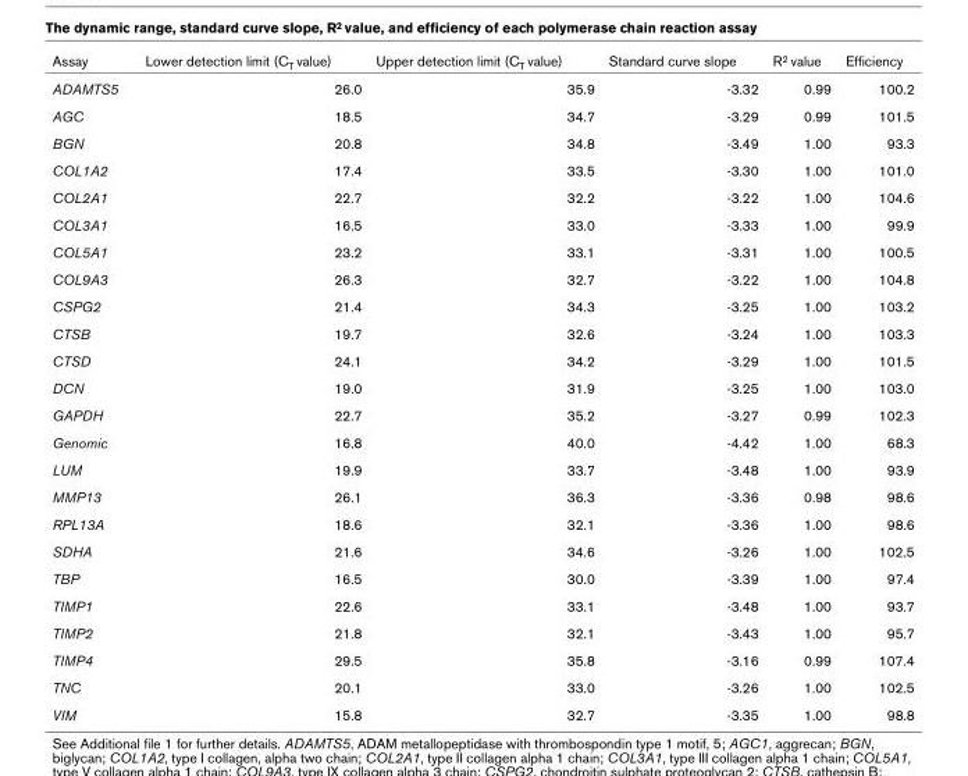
<table><thead><tr><td>Assay</td><td>Lower detection limit (CT value)</td><td>Upper detection limit (CT value)</td><td>Standard curve slope</td><td>R2 value</td><td>Efficiency</td></tr></thead><tbody><tr><td>ADAMTS5</td><td>26.0</td><td>35.9</td><td>-3.32</td><td>0.99</td><td>100.2</td></tr><tr><td>AGC</td><td>18.5</td><td>34.7</td><td>-3.29</td><td>0.99</td><td>101.5</td></tr><tr><td>BGN</td><td>20.8</td><td>34.8</td><td>-3.49</td><td>1.00</td><td>93.3</td></tr><tr><td>COL1A2</td><td>17.4</td><td>33.5</td><td>-3.30</td><td>1.00</td><td>101.0</td></tr><tr><td>COL2A1</td><td>22.7</td><td>32.2</td><td>-3.22</td><td>1.00</td><td>104.6</td></tr><tr><td>COL3A1</td><td>16.5</td><td>33.0</td><td>-3.33</td><td>1.00</td><td>99.9</td></tr><tr><td>COL5A1</td><td>23.2</td><td>33.1</td><td>-3.31</td><td>1.00</td><td>100.5</td></tr><tr><td>COL9A3</td><td>26.3</td><td>32.7</td><td>-3.22</td><td>1.00</td><td>104.8</td></tr><tr><td>CSPG2</td><td>21.4</td><td>34.3</td><td>-3.25</td><td>1.00</td><td>103.2</td></tr><tr><td>CTSB</td><td>19.7</td><td>32.6</td><td>-3.24</td><td>1.00</td><td>103.3</td></tr><tr><td>CTSD</td><td>24.1</td><td>34.2</td><td>-3.29</td><td>1.00</td><td>101.5</td></tr><tr><td>DCN</td><td>19.0</td><td>31.9</td><td>-3.25</td><td>1.00</td><td>103.0</td></tr><tr><td>GAPDH</td><td>22.7</td><td>35.2</td><td>-3.27</td><td>0.99</td><td>102.3</td></tr><tr><td>Genomic</td><td>16.8</td><td>40.0</td><td>-4.42</td><td>1.00</td><td>68.3</td></tr><tr><td>LUM</td><td>19.9</td><td>33.7</td><td>-3.48</td><td>1.00</td><td>93.9</td></tr><tr><td>MMP13</td><td>26.1</td><td>36.3</td><td>-3.36</td><td>0.98</td><td>98.6</td></tr><tr><td>RPL13A</td><td>18.6</td><td>32.1</td><td>-3.36</td><td>1.00</td><td>98.6</td></tr><tr><td>SDHA</td><td>21.6</td><td>34.6</td><td>-3.26</td><td>1.00</td><td>102.5</td></tr><tr><td>TBP</td><td>16.5</td><td>30.0</td><td>-3.39</td><td>1.00</td><td>97.4</td></tr><tr><td>TIMP1</td><td>22.6</td><td>33.1</td><td>-3.48</td><td>1.00</td><td>93.7</td></tr><tr><td>TIMP2</td><td>21.8</td><td>32.1</td><td>-3.43</td><td>1.00</td><td>95.7</td></tr><tr><td>TIMP4</td><td>29.5</td><td>35.8</td><td>-3.16</td><td>0.99</td><td>107.4</td></tr><tr><td>TNC</td><td>20.1</td><td>33.0</td><td>-3.26</td><td>1.00</td><td>102.5</td></tr><tr><td>VIM</td><td>15.8</td><td>32.7</td><td>-3.35</td><td>1.00</td><td>98.8</td></tr></tbody></table>